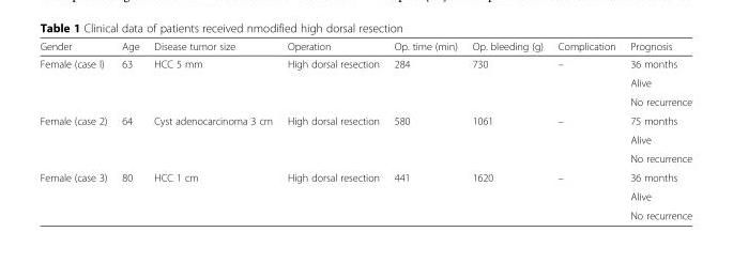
<table><thead><tr><td>Gender</td><td>Age</td><td>Disease tumor size</td><td>Operation</td><td>Op. time (min)</td><td>Op. bleeding (g)</td><td>Complication</td><td>Prognosis</td></tr></thead><tbody><tr><td rowspan="3">Female (case l)</td><td rowspan="3">63</td><td rowspan="3">HCC 5 mm</td><td rowspan="3">High dorsal resection</td><td rowspan="3">284</td><td rowspan="3">730</td><td rowspan="3">–</td><td>36 months</td></tr><tr><td>Alive</td></tr><tr><td>No recurrence</td></tr><tr><td rowspan="3">Female (case 2)</td><td rowspan="3">64</td><td rowspan="3">Cyst adenocarcinoma 3 cm</td><td rowspan="3">High dorsal resection</td><td rowspan="3">580</td><td rowspan="3">1061</td><td rowspan="3">–</td><td>75 months</td></tr><tr><td>Alive</td></tr><tr><td>No recurrence</td></tr><tr><td rowspan="3">Female (case 3)</td><td rowspan="3">80</td><td rowspan="3">HCC 1 cm</td><td rowspan="3">High dorsal resection</td><td rowspan="3">441</td><td rowspan="3">1620</td><td rowspan="3">–</td><td>36 months</td></tr><tr><td>Alive</td></tr><tr><td>No recurrence</td></tr></tbody></table>